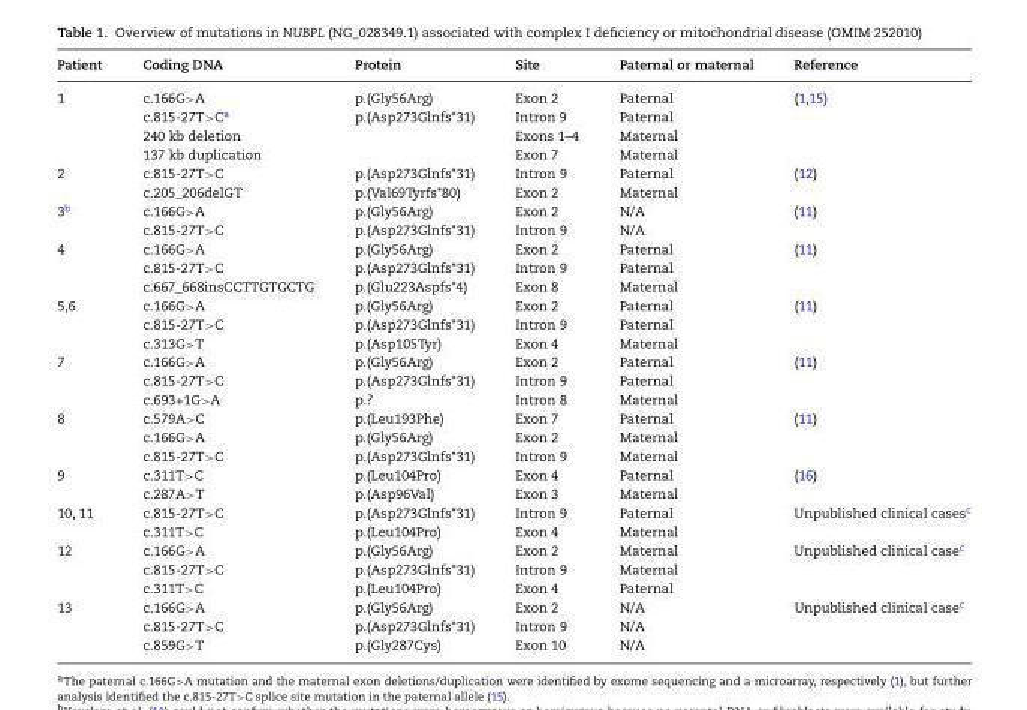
<table><thead><tr><td>Patient</td><td>Coding DNA</td><td>Protein</td><td>Site</td><td>Paternal or maternal</td><td>Reference</td></tr></thead><tbody><tr><td rowspan="4">1</td><td>c.166G&gt;A</td><td>p.(Gly56Arg)</td><td>Exon 2</td><td>Paternal</td><td>(1,15)</td></tr><tr><td>c.815-27T&gt;C<sup>a</sup></td><td>p.(Asp273Glnfs*31)</td><td>Intron 9</td><td>Paternal</td><td></td></tr><tr><td>240 kb deletion</td><td></td><td>Exons 1–4</td><td>Maternal</td><td></td></tr><tr><td>137 kb duplication</td><td></td><td>Exon 7</td><td>Maternal</td><td></td></tr><tr><td rowspan="2">2</td><td>c.815-27T&gt;C</td><td>p.(Asp273Glnfs*31)</td><td>Intron 9</td><td>Paternal</td><td>(12)</td></tr><tr><td>c.205_206delGT</td><td>p.(Val69Tyrfs*80)</td><td>Exon 2</td><td>Maternal</td><td></td></tr><tr><td rowspan="2">3<sup>b</sup></td><td>c.166G&gt;A</td><td>p.(Gly56Arg)</td><td>Exon 2</td><td>N/A</td><td>(11)</td></tr><tr><td>c.815-27T&gt;C</td><td>p.(Asp273Glnfs*31)</td><td>Intron 9</td><td>N/A</td><td></td></tr><tr><td rowspan="3">4</td><td>c.166G&gt;A</td><td>p.(Gly56Arg)</td><td>Exon 2</td><td>Paternal</td><td>(11)</td></tr><tr><td>c.815-27T&gt;C</td><td>p.(Asp273Glnfs*31)</td><td>Intron 9</td><td>Paternal</td><td></td></tr><tr><td>c.667_668insCCTTGTGCTG</td><td>p.(Glu223Aspfs*4)</td><td>Exon 8</td><td>Maternal</td><td></td></tr><tr><td rowspan="3">5,6</td><td>c.166G&gt;A</td><td>p.(Gly56Arg)</td><td>Exon 2</td><td>Paternal</td><td>(11)</td></tr><tr><td>c.815-27T&gt;C</td><td>p.(Asp273Glnfs*31)</td><td>Intron 9</td><td>Paternal</td><td></td></tr><tr><td>c.313G&gt;T</td><td>p.(Asp105Tyr)</td><td>Exon 4</td><td>Maternal</td><td></td></tr><tr><td rowspan="3">7</td><td>c.166G&gt;A</td><td>p.(Gly56Arg)</td><td>Exon 2</td><td>Paternal</td><td>(11)</td></tr><tr><td>c.815-27T&gt;C</td><td>p.(Asp273Glnfs*31)</td><td>Intron 9</td><td>Paternal</td><td></td></tr><tr><td>c.693+1G&gt;A</td><td>p.?</td><td>Intron 8</td><td>Maternal</td><td></td></tr><tr><td rowspan="3">8</td><td>c.579A&gt;C</td><td>p.(Leu193Phe)</td><td>Exon 7</td><td>Paternal</td><td>(11)</td></tr><tr><td>c.166G&gt;A</td><td>p.(Gly56Arg)</td><td>Exon 2</td><td>Maternal</td><td></td></tr><tr><td>c.815-27T&gt;C</td><td>p.(Asp273Glnfs*31)</td><td>Intron 9</td><td>Maternal</td><td></td></tr><tr><td rowspan="2">9</td><td>c.311T&gt;C</td><td>p.(Leu104Pro)</td><td>Exon 4</td><td>Paternal</td><td>(16)</td></tr><tr><td>c.287A&gt;T</td><td>p.(Asp96Val)</td><td>Exon 3</td><td>Maternal</td><td></td></tr><tr><td rowspan="2">10, 11</td><td>c.815-27T&gt;C</td><td>p.(Asp273Glnfs*31)</td><td>Intron 9</td><td>Paternal</td><td>Unpublished clinical cases<sup>c</sup></td></tr><tr><td>c.311T&gt;C</td><td>p.(Leu104Pro)</td><td>Exon 4</td><td>Maternal</td><td></td></tr><tr><td rowspan="3">12</td><td>c.166G&gt;A</td><td>p.(Gly56Arg)</td><td>Exon 2</td><td>Maternal</td><td>Unpublished clinical case<sup>c</sup></td></tr><tr><td>c.815-27T&gt;C</td><td>p.(Asp273Glnfs*31)</td><td>Intron 9</td><td>Maternal</td><td></td></tr><tr><td>c.311T&gt;C</td><td>p.(Leu104Pro)</td><td>Exon 4</td><td>Paternal</td><td></td></tr><tr><td rowspan="3">13</td><td>c.166G&gt;A</td><td>p.(Gly56Arg)</td><td>Exon 2</td><td>N/A</td><td>Unpublished clinical case<sup>c</sup></td></tr><tr><td>c.815-27T&gt;C</td><td>p.(Asp273Glnfs*31)</td><td>Intron 9</td><td>N/A</td><td></td></tr><tr><td>c.859G&gt;T</td><td>p.(Gly287Cys)</td><td>Exon 10</td><td>N/A</td><td></td></tr></tbody></table>